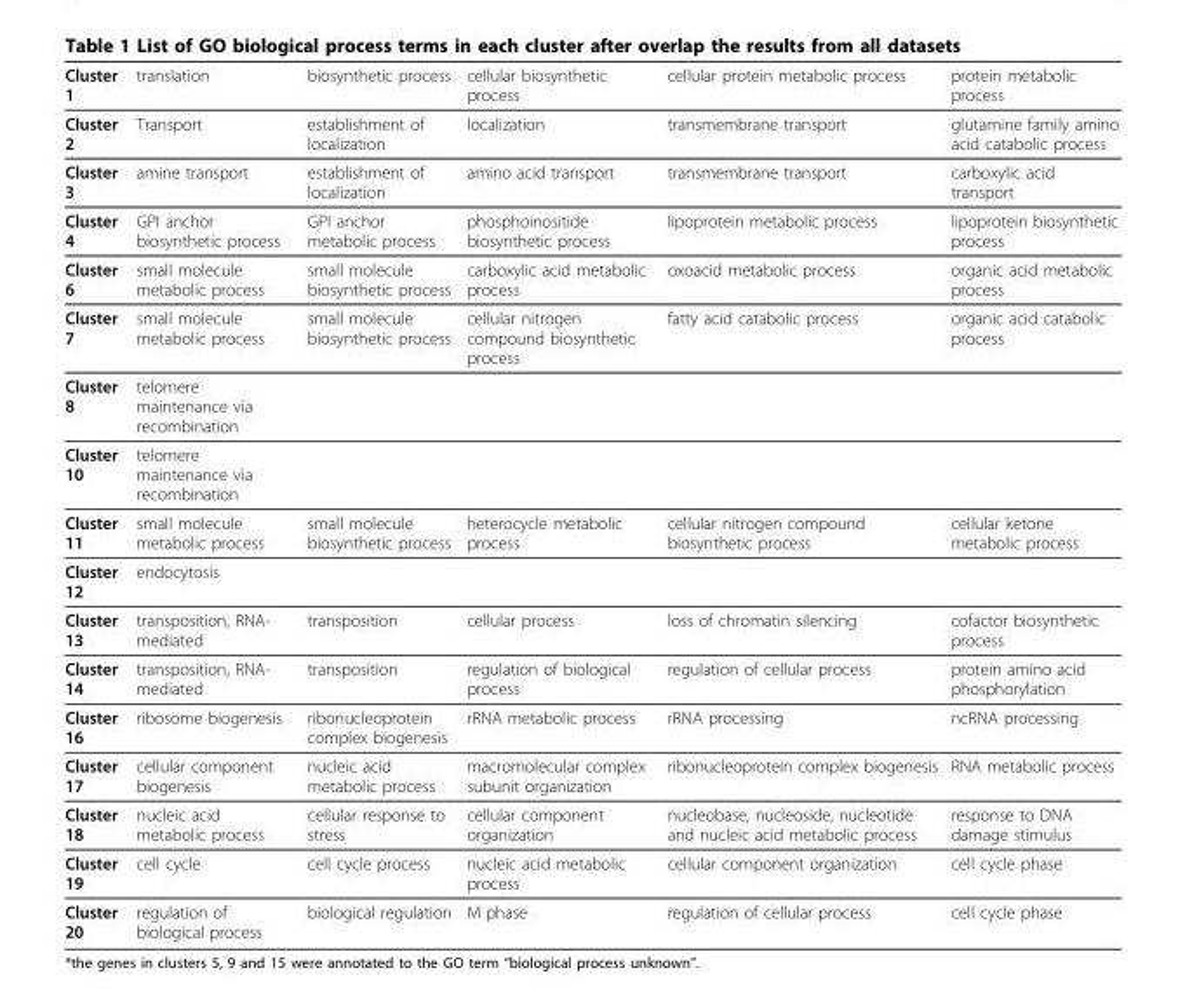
<table><thead><tr><td>Cluster 1</td><td>translation</td><td>biosynthetic process</td><td>cellular biosynthetic process</td><td>cellular protein metabolic process</td><td>protein metabolic process</td></tr></thead><tbody><tr><td>Cluster 2</td><td>Transport</td><td>establishment of localization</td><td>localization</td><td>transmembrane transport</td><td>glutamine family amino acid catabolic process</td></tr><tr><td>Cluster 3</td><td>amine transport</td><td>establishment of localization</td><td>amino acid transport</td><td>transmembrane transport</td><td>carboxylic acid transport</td></tr><tr><td>Cluster 4</td><td>GPI anchor biosynthetic process</td><td>GPI anchor metabolic process</td><td>phosphoinositide biosynthetic process</td><td>lipoprotein metabolic process</td><td>lipoprotein biosynthetic process</td></tr><tr><td>Cluster 6</td><td>small molecule metabolic process</td><td>small molecule biosynthetic process</td><td>carboxylic acid metabolic process</td><td>oxoacid metabolic process</td><td>organic acid metabolic process</td></tr><tr><td>Cluster 7</td><td>small molecule metabolic process</td><td>small molecule biosynthetic process</td><td>cellular nitrogen compound biosynthetic process</td><td>fatty acid catabolic process</td><td>organic acid catabolic process</td></tr><tr><td>Cluster 8</td><td>telomere maintenance via recombination</td><td></td><td></td><td></td><td></td></tr><tr><td>Cluster 10</td><td>telomere maintenance via recombination</td><td></td><td></td><td></td><td></td></tr><tr><td>Cluster 11</td><td>small molecule metabolic process</td><td>small molecule biosynthetic process</td><td>heterocycle metabolic process</td><td>cellular nitrogen compound biosynthetic process</td><td>cellular ketone metabolic process</td></tr><tr><td>Cluster 12</td><td>endocytosis</td><td></td><td></td><td></td><td></td></tr><tr><td>Cluster 13</td><td>transposition, RNA- mediated</td><td>transposition</td><td>cellular process</td><td>loss of chromatin silencing</td><td>cofactor biosynthetic process</td></tr><tr><td>Cluster 14</td><td>transposition, RNA- mediated</td><td>transposition</td><td>regulation of biological process</td><td>regulation of cellular process</td><td>protein amino acid phosphorylation</td></tr><tr><td>Cluster 16</td><td>ribosome biogenesis</td><td>ribonucleoprotein complex biogenesis</td><td>rRNA metabolic process</td><td>rRNA processing</td><td>ncRNA processing</td></tr><tr><td>Cluster 17</td><td>cellular component biogenesis</td><td>nucleic acid metabolic process</td><td>macromolecular complex subunit organization</td><td>ribonucleoprotein complex biogenesis</td><td>RNA metabolic process</td></tr><tr><td>Cluster 18</td><td>nucleic acid metabolic process</td><td>cellular response to stress</td><td>cellular component organization</td><td>nucleobase, nucleoside, nucleotide and nucleic acid metabolic process</td><td>response to DNA damage stimulus</td></tr><tr><td>Cluster 19</td><td>cell cycle</td><td>cell cycle process</td><td>nucleic acid metabolic process</td><td>cellular component organization</td><td>cell cycle phase</td></tr><tr><td>Cluster 20</td><td>regulation of biological process</td><td>biological regulation</td><td>M phase</td><td>regulation of cellular process</td><td>cell cycle phase</td></tr></tbody></table>